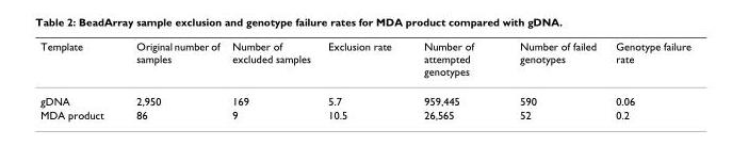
<table><thead><tr><td>Template</td><td>Original number of samples</td><td>Number of excluded samples</td><td>Exclusion rate</td><td>Number of attempted genotypes</td><td>Number of failed genotypes</td><td>Genotype failure rate</td></tr></thead><tbody><tr><td>gDNA</td><td>2,950</td><td>169</td><td>5.7</td><td>959,445</td><td>590</td><td>0.06</td></tr><tr><td>MDA product</td><td>86</td><td>9</td><td>10.5</td><td>26,565</td><td>52</td><td>0.2</td></tr></tbody></table>